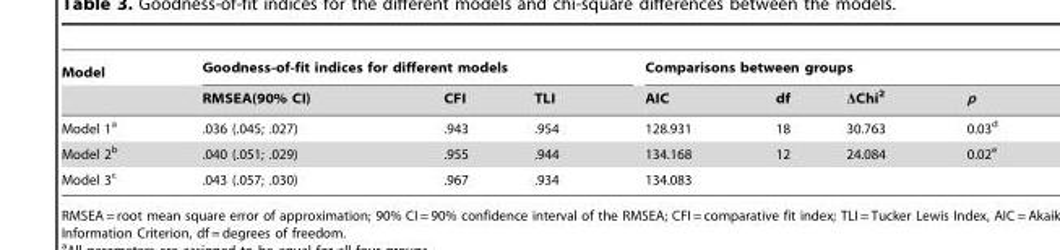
<table><thead><tr><td rowspan="2">Model</td><td colspan="3">Goodness-of-fit indices for different models</td><td colspan="4">Comparisons between groups</td></tr><tr><td>RMSEA(90% CI)</td><td>CFI</td><td>TLI</td><td>AIC</td><td>df</td><td>ΔChi<sup>2</sup></td><td>p</td></tr></thead><tbody><tr><td>Model 1<sup>a</sup></td><td>.036 (.045; .027)</td><td>.943</td><td>.954</td><td>128.931</td><td>18</td><td>30.763</td><td>0.03<sup>d</sup></td></tr><tr><td>Model 2<sup>b</sup></td><td>.040 (.051; .029)</td><td>.955</td><td>.944</td><td>134.168</td><td>12</td><td>24.084</td><td>0.02<sup>e</sup></td></tr><tr><td>Model 3<sup>c</sup></td><td>.043 (.057; .030)</td><td>.967</td><td>.934</td><td>134.083</td><td></td><td></td><td></td></tr></tbody></table>